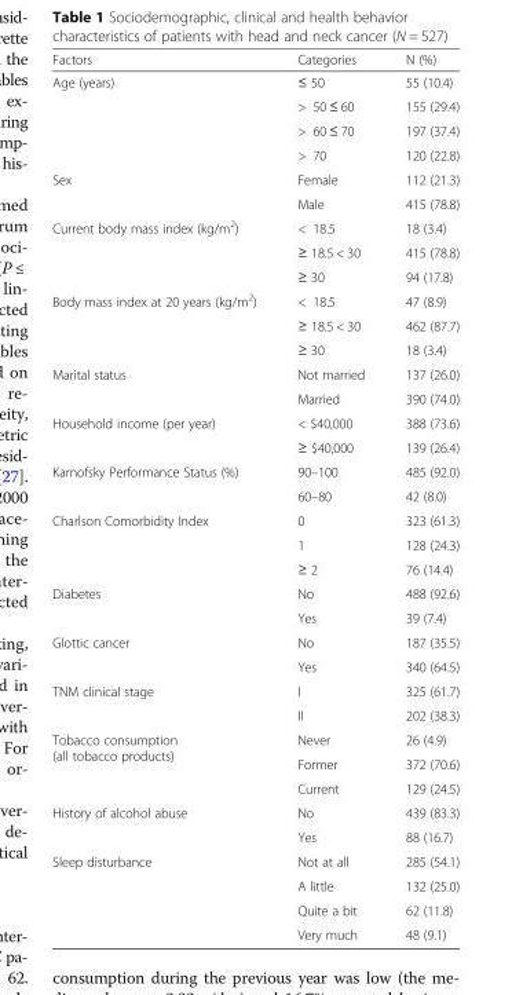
<table><thead><tr><td>Factors</td><td>Categories</td><td>N (%)</td></tr></thead><tbody><tr><td rowspan="4">Age (years)</td><td>≤ 50</td><td>55 (10.4)</td></tr><tr><td>&gt; 50 ≤ 60</td><td>155 (29.4)</td></tr><tr><td>&gt; 60 ≤ 70</td><td>197 (37.4)</td></tr><tr><td>&gt; 70</td><td>120 (22.8)</td></tr><tr><td rowspan="2">Sex</td><td>Female</td><td>112 (21.3)</td></tr><tr><td>Male</td><td>415 (78.8)</td></tr><tr><td rowspan="3">Current body mass index (kg/m<sup>2</sup>)</td><td>&lt; 18.5</td><td>18 (3.4)</td></tr><tr><td>≥ 18.5 &lt; 30</td><td>415 (78.8)</td></tr><tr><td>≥ 30</td><td>94 (17.8)</td></tr><tr><td rowspan="3">Body mass index at 20 years (kg/m<sup>2</sup>)</td><td>&lt; 18.5</td><td>47 (8.9)</td></tr><tr><td>≥ 18.5 &lt; 30</td><td>462 (87.7)</td></tr><tr><td>≥ 30</td><td>18 (3.4)</td></tr><tr><td rowspan="2">Marital status</td><td>Not married</td><td>137 (26.0)</td></tr><tr><td>Married</td><td>390 (74.0)</td></tr><tr><td rowspan="2">Household income (per year)</td><td>&lt; $40,000</td><td>388 (73.6)</td></tr><tr><td>≥ $40,000</td><td>139 (26.4)</td></tr><tr><td rowspan="2">Karnofsky Performance Status (%)</td><td>90–100</td><td>485 (92.0)</td></tr><tr><td>60–80</td><td>42 (8.0)</td></tr><tr><td rowspan="3">Charlson Comorbidity Index</td><td>0</td><td>323 (61.3)</td></tr><tr><td>1</td><td>128 (24.3)</td></tr><tr><td>≥ 2</td><td>76 (14.4)</td></tr><tr><td rowspan="2">Diabetes</td><td>No</td><td>488 (92.6)</td></tr><tr><td>Yes</td><td>39 (7.4)</td></tr><tr><td rowspan="2">Glottic cancer</td><td>No</td><td>187 (35.5)</td></tr><tr><td>Yes</td><td>340 (64.5)</td></tr><tr><td rowspan="2">TNM clinical stage</td><td>I</td><td>325 (61.7)</td></tr><tr><td>II</td><td>202 (38.3)</td></tr><tr><td rowspan="3">Tobacco consumption (all tobacco products)</td><td>Never</td><td>26 (4.9)</td></tr><tr><td>Former</td><td>372 (70.6)</td></tr><tr><td>Current</td><td>129 (24.5)</td></tr><tr><td rowspan="2">History of alcohol abuse</td><td>No</td><td>439 (83.3)</td></tr><tr><td>Yes</td><td>88 (16.7)</td></tr><tr><td rowspan="4">Sleep disturbance</td><td>Not at all</td><td>285 (54.1)</td></tr><tr><td>A little</td><td>132 (25.0)</td></tr><tr><td>Quite a bit</td><td>62 (11.8)</td></tr><tr><td>Very much</td><td>48 (9.1)</td></tr></tbody></table>